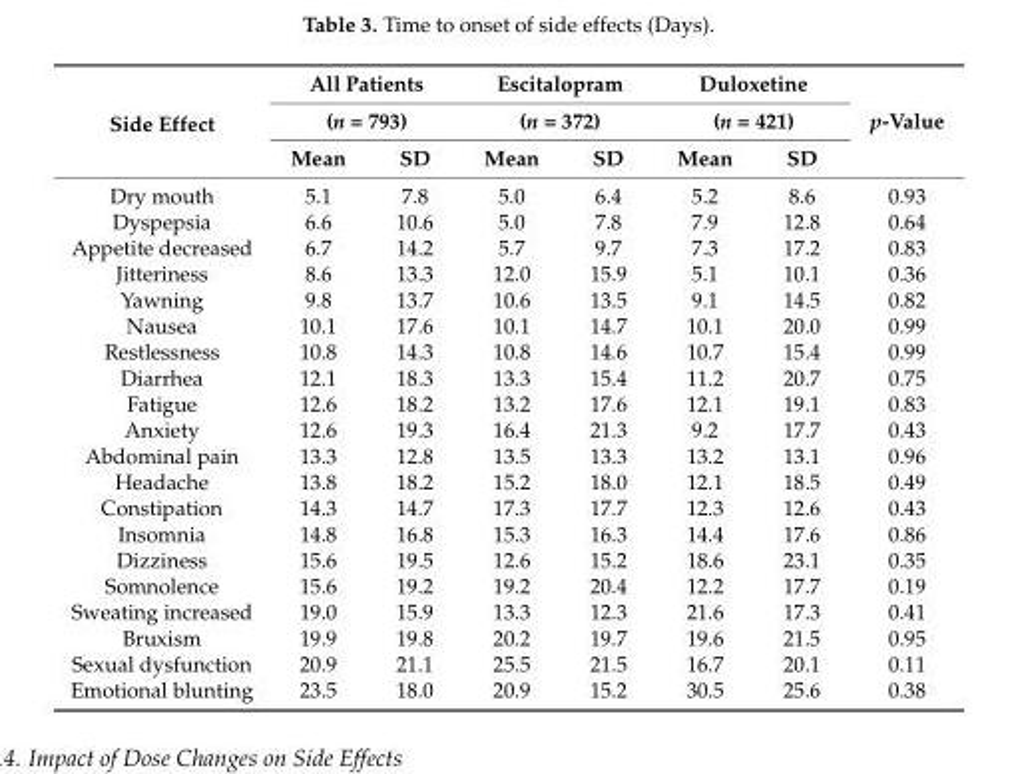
<table><thead><tr><td rowspan="3">Side Effect</td><td rowspan="2" colspan="2">All Patients (n = 793)</td><td rowspan="2" colspan="2">Escitalopram (n = 372)</td><td rowspan="2" colspan="2">Duloxetine (n = 421)</td><td rowspan="3">p-Value</td></tr><tr></tr><tr><td>Mean</td><td>SD</td><td>Mean</td><td>SD</td><td>Mean</td><td>SD</td></tr></thead><tbody><tr><td>Dry mouth</td><td>5.1</td><td>7.8</td><td>5.0</td><td>6.4</td><td>5.2</td><td>8.6</td><td>0.93</td></tr><tr><td>Dyspepsia</td><td>6.6</td><td>10.6</td><td>5.0</td><td>7.8</td><td>7.9</td><td>12.8</td><td>0.64</td></tr><tr><td>Appetite decreased</td><td>6.7</td><td>14.2</td><td>5.7</td><td>9.7</td><td>7.3</td><td>17.2</td><td>0.83</td></tr><tr><td>Jitteriness</td><td>8.6</td><td>13.3</td><td>12.0</td><td>15.9</td><td>5.1</td><td>10.1</td><td>0.36</td></tr><tr><td>Yawning</td><td>9.8</td><td>13.7</td><td>10.6</td><td>13.5</td><td>9.1</td><td>14.5</td><td>0.82</td></tr><tr><td>Nausea</td><td>10.1</td><td>17.6</td><td>10.1</td><td>14.7</td><td>10.1</td><td>20.0</td><td>0.99</td></tr><tr><td>Restlessness</td><td>10.8</td><td>14.3</td><td>10.8</td><td>14.6</td><td>10.7</td><td>15.4</td><td>0.99</td></tr><tr><td>Diarrhea</td><td>12.1</td><td>18.3</td><td>13.3</td><td>15.4</td><td>11.2</td><td>20.7</td><td>0.75</td></tr><tr><td>Fatigue</td><td>12.6</td><td>18.2</td><td>13.2</td><td>17.6</td><td>12.1</td><td>19.1</td><td>0.83</td></tr><tr><td>Anxiety</td><td>12.6</td><td>19.3</td><td>16.4</td><td>21.3</td><td>9.2</td><td>17.7</td><td>0.43</td></tr><tr><td>Abdominal pain</td><td>13.3</td><td>12.8</td><td>13.5</td><td>13.3</td><td>13.2</td><td>13.1</td><td>0.96</td></tr><tr><td>Headache</td><td>13.8</td><td>18.2</td><td>15.2</td><td>18.0</td><td>12.1</td><td>18.5</td><td>0.49</td></tr><tr><td>Constipation</td><td>14.3</td><td>14.7</td><td>17.3</td><td>17.7</td><td>12.3</td><td>12.6</td><td>0.43</td></tr><tr><td>Insomnia</td><td>14.8</td><td>16.8</td><td>15.3</td><td>16.3</td><td>14.4</td><td>17.6</td><td>0.86</td></tr><tr><td>Dizziness</td><td>15.6</td><td>19.5</td><td>12.6</td><td>15.2</td><td>18.6</td><td>23.1</td><td>0.35</td></tr><tr><td>Somnolence</td><td>15.6</td><td>19.2</td><td>19.2</td><td>20.4</td><td>12.2</td><td>17.7</td><td>0.19</td></tr><tr><td>Sweating increased</td><td>19.0</td><td>15.9</td><td>13.3</td><td>12.3</td><td>21.6</td><td>17.3</td><td>0.41</td></tr><tr><td>Bruxism</td><td>19.9</td><td>19.8</td><td>20.2</td><td>19.7</td><td>19.6</td><td>21.5</td><td>0.95</td></tr><tr><td>Sexual dysfunction</td><td>20.9</td><td>21.1</td><td>25.5</td><td>21.5</td><td>16.7</td><td>20.1</td><td>0.11</td></tr><tr><td>Emotional blunting</td><td>23.5</td><td>18.0</td><td>20.9</td><td>15.2</td><td>30.5</td><td>25.6</td><td>0.38</td></tr></tbody></table>